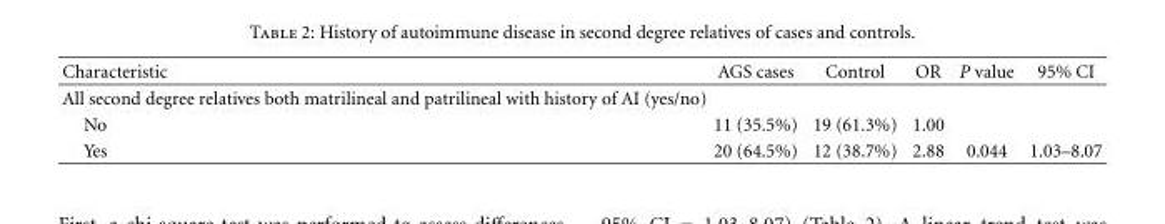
<table><thead><tr><td>Characteristic</td><td>AGS cases</td><td>Control</td><td>OR</td><td>P value</td><td>95% CI</td></tr></thead><tbody><tr><td colspan="6">All second degree relatives both matrilineal and patrilineal with history of AI (yes/no)</td></tr><tr><td>No</td><td>11 (35.5%)</td><td>19 (61.3%)</td><td>1.00</td><td></td><td></td></tr><tr><td>Yes</td><td>20 (64.5%)</td><td>12 (38.7%)</td><td>2.88</td><td>0.044</td><td>1.03–8.07</td></tr></tbody></table>